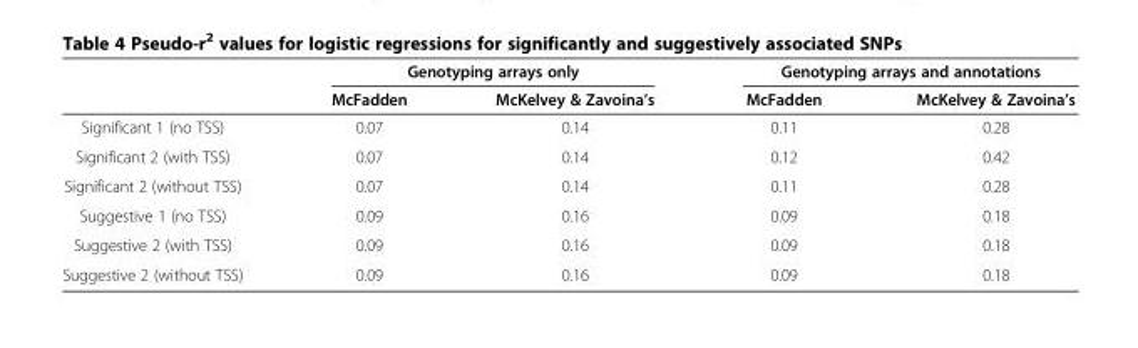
<table><thead><tr><td rowspan="2"></td><td colspan="2">Genotyping arrays only</td><td colspan="2">Genotyping arrays and annotations</td></tr><tr><td>McFadden</td><td>McKelvey &amp; Zavoina’s</td><td>McFadden</td><td>McKelvey &amp; Zavoina’s</td></tr></thead><tbody><tr><td>Significant 1 (no TSS)</td><td>0.07</td><td>0.14</td><td>0.11</td><td>0.28</td></tr><tr><td>Significant 2 (with TSS)</td><td>0.07</td><td>0.14</td><td>0.12</td><td>0.42</td></tr><tr><td>Significant 2 (without TSS)</td><td>0.07</td><td>0.14</td><td>0.11</td><td>0.28</td></tr><tr><td>Suggestive 1 (no TSS)</td><td>0.09</td><td>0.16</td><td>0.09</td><td>0.18</td></tr><tr><td>Suggestive 2 (with TSS)</td><td>0.09</td><td>0.16</td><td>0.09</td><td>0.18</td></tr><tr><td>Suggestive 2 (without TSS)</td><td>0.09</td><td>0.16</td><td>0.09</td><td>0.18</td></tr></tbody></table>